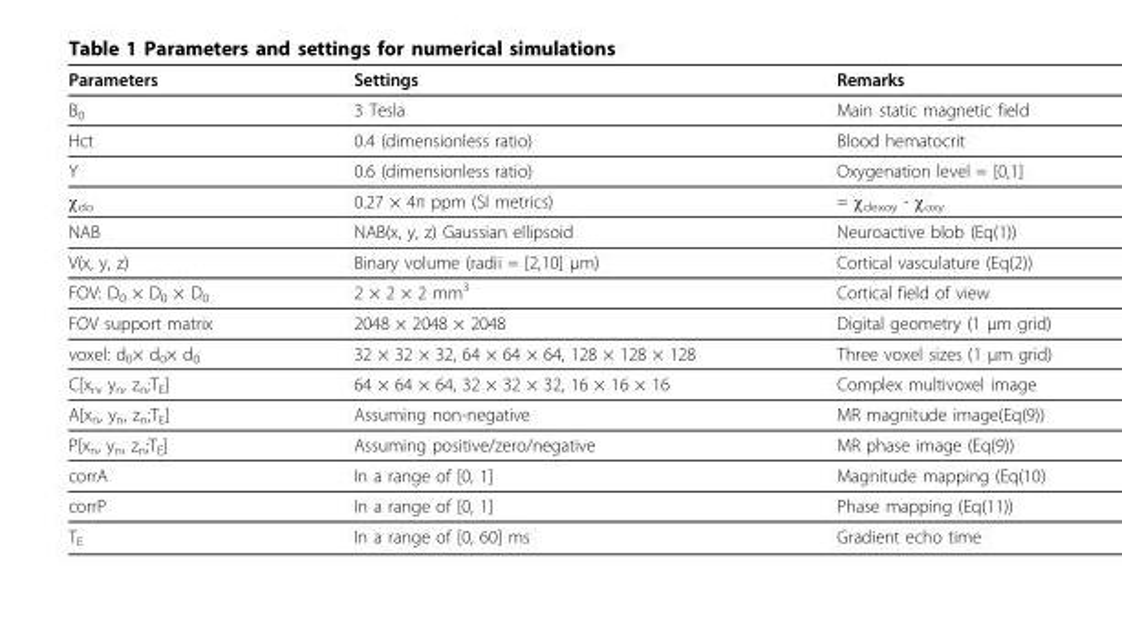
<table><thead><tr><td>Parameters</td><td>Settings</td><td>Remarks</td></tr></thead><tbody><tr><td>B<sub>0</sub></td><td>3 Tesla</td><td>Main static magnetic field</td></tr><tr><td>Hct</td><td>0.4 (dimensionless ratio)</td><td>Blood hematocrit</td></tr><tr><td>Y</td><td>0.6 (dimensionless ratio)</td><td>Oxygenation level = [0,1]</td></tr><tr><td>χ<sub>do</sub></td><td>0.27 × 4π ppm (SI metrics)</td><td>= χ<sub>dexoy</sub> - χ<sub>oxy</sub></td></tr><tr><td>NAB</td><td>NAB(x, y, z) Gaussian ellipsoid</td><td>Neuroactive blob (Eq(1))</td></tr><tr><td>V(x, y, z)</td><td>Binary volume (radii = [2,10] μm)</td><td>Cortical vasculature (Eq(2))</td></tr><tr><td>FOV: D<sub>0</sub> × D<sub>0</sub> × D<sub>0</sub></td><td>2 × 2 × 2 mm<sup>3</sup></td><td>Cortical field of view</td></tr><tr><td>FOV support matrix</td><td>2048 × 2048 × 2048</td><td>Digital geometry (1 μm grid)</td></tr><tr><td>voxel: d<sub>0</sub>× d<sub>0</sub>× d<sub>0</sub></td><td>32 × 32 × 32, 64 × 64 × 64, 128 × 128 × 128</td><td>Three voxel sizes (1 μm grid)</td></tr><tr><td>C[x<sub>n</sub>, y<sub>n</sub>, z<sub>n</sub>;T<sub>E</sub>]</td><td>64 × 64 × 64, 32 × 32 × 32, 16 × 16 × 16</td><td>Complex multivoxel image</td></tr><tr><td>A[x<sub>n</sub>, y<sub>n</sub>, z<sub>n</sub>;T<sub>E</sub>]</td><td>Assuming non-negative</td><td>MR magnitude image(Eq(9))</td></tr><tr><td>P[x<sub>n</sub>, y<sub>n</sub>, z<sub>n</sub>;T<sub>E</sub>]</td><td>Assuming positive/zero/negative</td><td>MR phase image (Eq(9))</td></tr><tr><td>corrA</td><td>In a range of [0, 1]</td><td>Magnitude mapping (Eq(10)</td></tr><tr><td>corrP</td><td>In a range of [0, 1]</td><td>Phase mapping (Eq(11))</td></tr><tr><td>T<sub>E</sub></td><td>In a range of [0, 60] ms</td><td>Gradient echo time</td></tr></tbody></table>